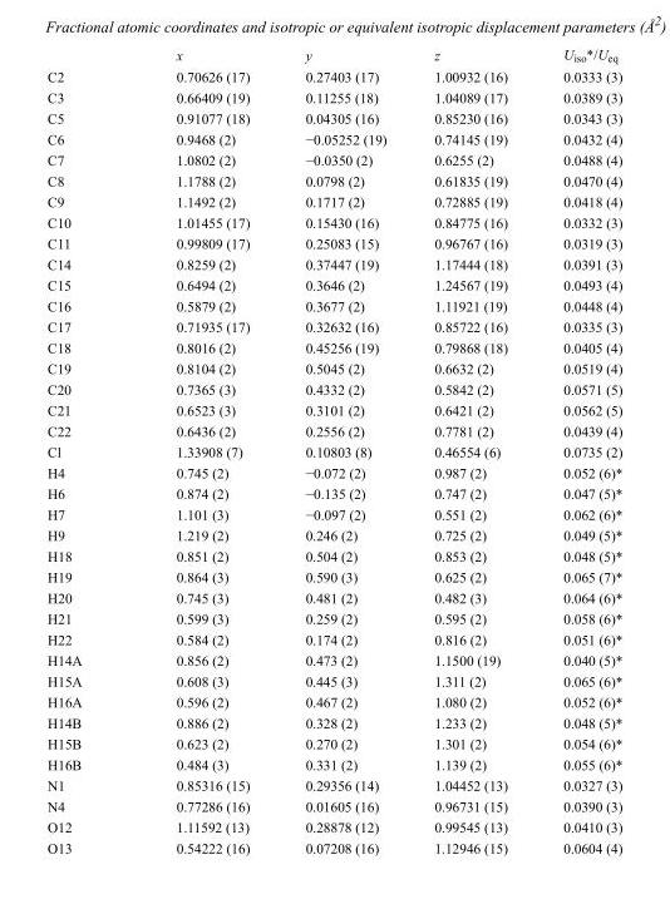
<table><thead><tr><td></td><td>x</td><td>y</td><td>z</td><td>U<sub>iso</sub>*/U<sub>eq</sub></td></tr></thead><tbody><tr><td>C2</td><td>0.70626 (17)</td><td>0.27403 (17)</td><td>1.00932 (16)</td><td>0.0333 (3)</td></tr><tr><td>C3</td><td>0.66409 (19)</td><td>0.11255 (18)</td><td>1.04089 (17)</td><td>0.0389 (3)</td></tr><tr><td>C5</td><td>0.91077 (18)</td><td>0.04305 (16)</td><td>0.85230 (16)</td><td>0.0343 (3)</td></tr><tr><td>C6</td><td>0.9468 (2)</td><td>−0.05252 (19)</td><td>0.74145 (19)</td><td>0.0432 (4)</td></tr><tr><td>C7</td><td>1.0802 (2)</td><td>−0.0350 (2)</td><td>0.6255 (2)</td><td>0.0488 (4)</td></tr><tr><td>C8</td><td>1.1788 (2)</td><td>0.0798 (2)</td><td>0.61835 (19)</td><td>0.0470 (4)</td></tr><tr><td>C9</td><td>1.1492 (2)</td><td>0.1717 (2)</td><td>0.72885 (19)</td><td>0.0418 (4)</td></tr><tr><td>C10</td><td>1.01455 (17)</td><td>0.15430 (16)</td><td>0.84775 (16)</td><td>0.0332 (3)</td></tr><tr><td>C11</td><td>0.99809 (17)</td><td>0.25083 (15)</td><td>0.96767 (16)</td><td>0.0319 (3)</td></tr><tr><td>C14</td><td>0.8259 (2)</td><td>0.37447 (19)</td><td>1.17444 (18)</td><td>0.0391 (3)</td></tr><tr><td>C15</td><td>0.6494 (2)</td><td>0.3646 (2)</td><td>1.24567 (19)</td><td>0.0493 (4)</td></tr><tr><td>C16</td><td>0.5879 (2)</td><td>0.3677 (2)</td><td>1.11921 (19)</td><td>0.0448 (4)</td></tr><tr><td>C17</td><td>0.71935 (17)</td><td>0.32632 (16)</td><td>0.85722 (16)</td><td>0.0335 (3)</td></tr><tr><td>C18</td><td>0.8016 (2)</td><td>0.45256 (19)</td><td>0.79868 (18)</td><td>0.0405 (4)</td></tr><tr><td>C19</td><td>0.8104 (2)</td><td>0.5045 (2)</td><td>0.6632 (2)</td><td>0.0519 (4)</td></tr><tr><td>C20</td><td>0.7365 (3)</td><td>0.4332 (2)</td><td>0.5842 (2)</td><td>0.0571 (5)</td></tr><tr><td>C21</td><td>0.6523 (3)</td><td>0.3101 (2)</td><td>0.6421 (2)</td><td>0.0562 (5)</td></tr><tr><td>C22</td><td>0.6436 (2)</td><td>0.2556 (2)</td><td>0.7781 (2)</td><td>0.0439 (4)</td></tr><tr><td>Cl</td><td>1.33908 (7)</td><td>0.10803 (8)</td><td>0.46554 (6)</td><td>0.0735 (2)</td></tr><tr><td>H4</td><td>0.745 (2)</td><td>−0.072 (2)</td><td>0.987 (2)</td><td>0.052 (6)*</td></tr><tr><td>H6</td><td>0.874 (2)</td><td>−0.135 (2)</td><td>0.747 (2)</td><td>0.047 (5)*</td></tr><tr><td>H7</td><td>1.101 (3)</td><td>−0.097 (2)</td><td>0.551 (2)</td><td>0.062 (6)*</td></tr><tr><td>H9</td><td>1.219 (2)</td><td>0.246 (2)</td><td>0.725 (2)</td><td>0.049 (5)*</td></tr><tr><td>H18</td><td>0.851 (2)</td><td>0.504 (2)</td><td>0.853 (2)</td><td>0.048 (5)*</td></tr><tr><td>H19</td><td>0.864 (3)</td><td>0.590 (3)</td><td>0.625 (2)</td><td>0.065 (7)*</td></tr><tr><td>H20</td><td>0.745 (3)</td><td>0.481 (2)</td><td>0.482 (3)</td><td>0.064 (6)*</td></tr><tr><td>H21</td><td>0.599 (3)</td><td>0.259 (2)</td><td>0.595 (2)</td><td>0.058 (6)*</td></tr><tr><td>H22</td><td>0.584 (2)</td><td>0.174 (2)</td><td>0.816 (2)</td><td>0.051 (6)*</td></tr><tr><td>H14A</td><td>0.856 (2)</td><td>0.473 (2)</td><td>1.1500 (19)</td><td>0.040 (5)*</td></tr><tr><td>H15A</td><td>0.608 (3)</td><td>0.445 (3)</td><td>1.311 (2)</td><td>0.065 (6)*</td></tr><tr><td>H16A</td><td>0.596 (2)</td><td>0.467 (2)</td><td>1.080 (2)</td><td>0.052 (6)*</td></tr><tr><td>H14B</td><td>0.886 (2)</td><td>0.328 (2)</td><td>1.233 (2)</td><td>0.048 (5)*</td></tr><tr><td>H15B</td><td>0.623 (2)</td><td>0.270 (2)</td><td>1.301 (2)</td><td>0.054 (6)*</td></tr><tr><td>H16B</td><td>0.484 (3)</td><td>0.331 (2)</td><td>1.139 (2)</td><td>0.055 (6)*</td></tr><tr><td>N1</td><td>0.85316 (15)</td><td>0.29356 (14)</td><td>1.04452 (13)</td><td>0.0327 (3)</td></tr><tr><td>N4</td><td>0.77286 (16)</td><td>0.01605 (16)</td><td>0.96731 (15)</td><td>0.0390 (3)</td></tr><tr><td>O12</td><td>1.11592 (13)</td><td>0.28878 (12)</td><td>0.99545 (13)</td><td>0.0410 (3)</td></tr><tr><td>O13</td><td>0.54222 (16)</td><td>0.07208 (16)</td><td>1.12946 (15)</td><td>0.0604 (4)</td></tr></tbody></table>